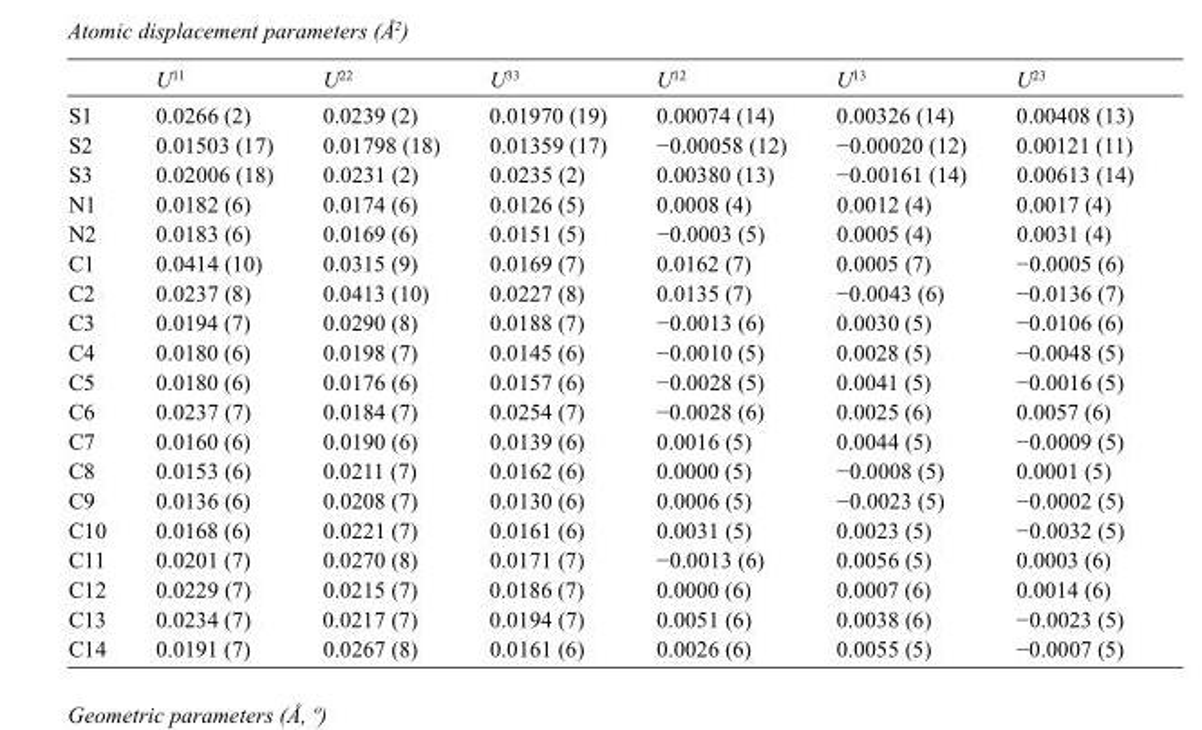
<table><thead><tr><td></td><td>U<sup>11</sup></td><td>U<sup>22</sup></td><td>U<sup>33</sup></td><td>U<sup>12</sup></td><td>U<sup>13</sup></td><td>U<sup>23</sup></td></tr></thead><tbody><tr><td>S1</td><td>0.0266 (2)</td><td>0.0239 (2)</td><td>0.01970 (19)</td><td>0.00074 (14)</td><td>0.00326 (14)</td><td>0.00408 (13)</td></tr><tr><td>S2</td><td>0.01503 (17)</td><td>0.01798 (18)</td><td>0.01359 (17)</td><td>−0.00058 (12)</td><td>−0.00020 (12)</td><td>0.00121 (11)</td></tr><tr><td>S3</td><td>0.02006 (18)</td><td>0.0231 (2)</td><td>0.0235 (2)</td><td>0.00380 (13)</td><td>−0.00161 (14)</td><td>0.00613 (14)</td></tr><tr><td>N1</td><td>0.0182 (6)</td><td>0.0174 (6)</td><td>0.0126 (5)</td><td>0.0008 (4)</td><td>0.0012 (4)</td><td>0.0017 (4)</td></tr><tr><td>N2</td><td>0.0183 (6)</td><td>0.0169 (6)</td><td>0.0151 (5)</td><td>−0.0003 (5)</td><td>0.0005 (4)</td><td>0.0031 (4)</td></tr><tr><td>C1</td><td>0.0414 (10)</td><td>0.0315 (9)</td><td>0.0169 (7)</td><td>0.0162 (7)</td><td>0.0005 (7)</td><td>−0.0005 (6)</td></tr><tr><td>C2</td><td>0.0237 (8)</td><td>0.0413 (10)</td><td>0.0227 (8)</td><td>0.0135 (7)</td><td>−0.0043 (6)</td><td>−0.0136 (7)</td></tr><tr><td>C3</td><td>0.0194 (7)</td><td>0.0290 (8)</td><td>0.0188 (7)</td><td>−0.0013 (6)</td><td>0.0030 (5)</td><td>−0.0106 (6)</td></tr><tr><td>C4</td><td>0.0180 (6)</td><td>0.0198 (7)</td><td>0.0145 (6)</td><td>−0.0010 (5)</td><td>0.0028 (5)</td><td>−0.0048 (5)</td></tr><tr><td>C5</td><td>0.0180 (6)</td><td>0.0176 (6)</td><td>0.0157 (6)</td><td>−0.0028 (5)</td><td>0.0041 (5)</td><td>−0.0016 (5)</td></tr><tr><td>C6</td><td>0.0237 (7)</td><td>0.0184 (7)</td><td>0.0254 (7)</td><td>−0.0028 (6)</td><td>0.0025 (6)</td><td>0.0057 (6)</td></tr><tr><td>C7</td><td>0.0160 (6)</td><td>0.0190 (6)</td><td>0.0139 (6)</td><td>0.0016 (5)</td><td>0.0044 (5)</td><td>−0.0009 (5)</td></tr><tr><td>C8</td><td>0.0153 (6)</td><td>0.0211 (7)</td><td>0.0162 (6)</td><td>0.0000 (5)</td><td>−0.0008 (5)</td><td>0.0001 (5)</td></tr><tr><td>C9</td><td>0.0136 (6)</td><td>0.0208 (7)</td><td>0.0130 (6)</td><td>0.0006 (5)</td><td>−0.0023 (5)</td><td>−0.0002 (5)</td></tr><tr><td>C10</td><td>0.0168 (6)</td><td>0.0221 (7)</td><td>0.0161 (6)</td><td>0.0031 (5)</td><td>0.0023 (5)</td><td>−0.0032 (5)</td></tr><tr><td>C11</td><td>0.0201 (7)</td><td>0.0270 (8)</td><td>0.0171 (7)</td><td>−0.0013 (6)</td><td>0.0056 (5)</td><td>0.0003 (6)</td></tr><tr><td>C12</td><td>0.0229 (7)</td><td>0.0215 (7)</td><td>0.0186 (7)</td><td>0.0000 (6)</td><td>0.0007 (6)</td><td>0.0014 (6)</td></tr><tr><td>C13</td><td>0.0234 (7)</td><td>0.0217 (7)</td><td>0.0194 (7)</td><td>0.0051 (6)</td><td>0.0038 (6)</td><td>−0.0023 (5)</td></tr><tr><td>C14</td><td>0.0191 (7)</td><td>0.0267 (8)</td><td>0.0161 (6)</td><td>0.0026 (6)</td><td>0.0055 (5)</td><td>−0.0007 (5)</td></tr></tbody></table>